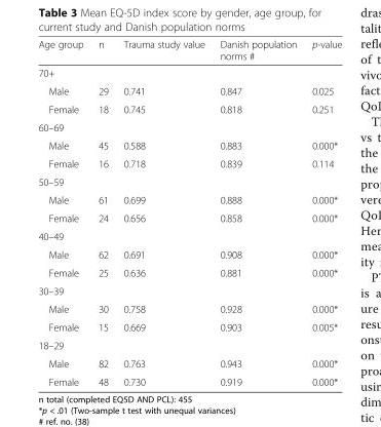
<table><thead><tr><td>Age group</td><td>n</td><td>Trauma study value</td><td>Danish population norms #</td><td>p-value</td></tr></thead><tbody><tr><td colspan="5">70+</td></tr><tr><td>Male</td><td>29</td><td>0.741</td><td>0.847</td><td>0.025</td></tr><tr><td>Female</td><td>18</td><td>0.745</td><td>0.818</td><td>0.251</td></tr><tr><td colspan="5">60–69</td></tr><tr><td>Male</td><td>45</td><td>0.588</td><td>0.883</td><td>0.000*</td></tr><tr><td>Female</td><td>16</td><td>0.718</td><td>0.839</td><td>0.114</td></tr><tr><td colspan="5">50–59</td></tr><tr><td>Male</td><td>61</td><td>0.699</td><td>0.888</td><td>0.000*</td></tr><tr><td>Female</td><td>24</td><td>0.656</td><td>0.858</td><td>0.000*</td></tr><tr><td colspan="5">40–49</td></tr><tr><td>Male</td><td>62</td><td>0.691</td><td>0.908</td><td>0.000*</td></tr><tr><td>Female</td><td>25</td><td>0.636</td><td>0.881</td><td>0.000*</td></tr><tr><td colspan="5">30–39</td></tr><tr><td>Male</td><td>30</td><td>0.758</td><td>0.928</td><td>0.000*</td></tr><tr><td>Female</td><td>15</td><td>0.669</td><td>0.903</td><td>0.005*</td></tr><tr><td colspan="5">18–29</td></tr><tr><td>Male</td><td>82</td><td>0.763</td><td>0.943</td><td>0.000*</td></tr><tr><td>Female</td><td>48</td><td>0.730</td><td>0.919</td><td>0.000*</td></tr></tbody></table>